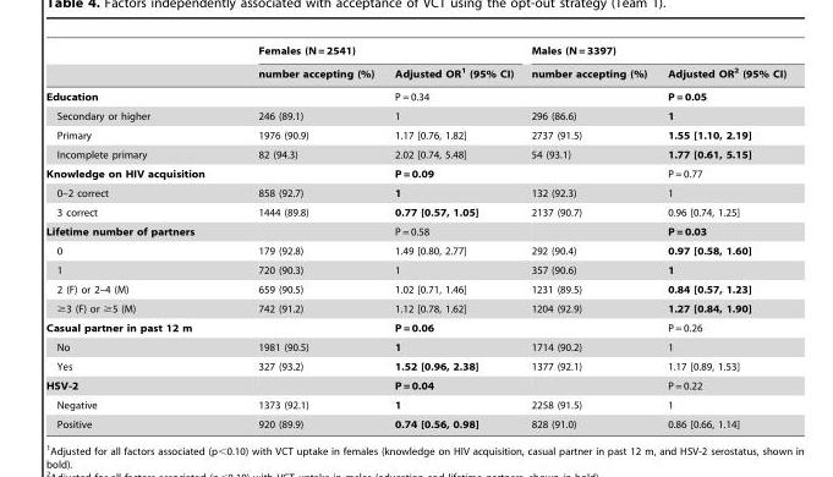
<table><thead><tr><td rowspan="2"></td><td colspan="2">Females (N = 2541)</td><td colspan="2">Males (N = 3397)</td></tr><tr><td>number accepting (%)</td><td>Adjusted OR<sup>1</sup> (95% CI)</td><td>number accepting (%)</td><td>Adjusted OR<sup>2</sup> (95% CI)</td></tr></thead><tbody><tr><td>Education</td><td></td><td>P = 0.34</td><td></td><td>P = 0.05</td></tr><tr><td>Secondary or higher</td><td>246 (89.1)</td><td>1</td><td>296 (86.6)</td><td>1</td></tr><tr><td>Primary</td><td>1976 (90.9)</td><td>1.17 [0.76, 1.82]</td><td>2737 (91.5)</td><td>1.55 [1.10, 2.19]</td></tr><tr><td>Incomplete primary</td><td>82 (94.3)</td><td>2.02 [0.74, 5.48]</td><td>54 (93.1)</td><td>1.77 [0.61, 5.15]</td></tr><tr><td>Knowledge on HIV acquisition</td><td></td><td>P = 0.09</td><td></td><td>P = 0.77</td></tr><tr><td>0–2 correct</td><td>858 (92.7)</td><td>1</td><td>132 (92.3)</td><td>1</td></tr><tr><td>3 correct</td><td>1444 (89.8)</td><td>0.77 [0.57, 1.05]</td><td>2137 (90.7)</td><td>0.96 [0.74, 1.25]</td></tr><tr><td>Lifetime number of partners</td><td></td><td>P = 0.58</td><td></td><td>P = 0.03</td></tr><tr><td>0</td><td>179 (92.8)</td><td>1.49 [0.80, 2.77]</td><td>292 (90.4)</td><td>0.97 [0.58, 1.60]</td></tr><tr><td>1</td><td>720 (90.3)</td><td>1</td><td>357 (90.6)</td><td>1</td></tr><tr><td>2 (F) or 2–4 (M)</td><td>659 (90.5)</td><td>1.02 [0.71, 1.46]</td><td>1231 (89.5)</td><td>0.84 [0.57, 1.23]</td></tr><tr><td>≥3 (F) or ≥5 (M)</td><td>742 (91.2)</td><td>1.12 [0.78, 1.62]</td><td>1204 (92.9)</td><td>1.27 [0.84, 1.90]</td></tr><tr><td>Casual partner in past 12 m</td><td></td><td>P = 0.06</td><td></td><td>P = 0.26</td></tr><tr><td>No</td><td>1981 (90.5)</td><td>1</td><td>1714 (90.2)</td><td>1</td></tr><tr><td>Yes</td><td>327 (93.2)</td><td>1.52 [0.96, 2.38]</td><td>1377 (92.1)</td><td>1.17 [0.89, 1.53]</td></tr><tr><td>HSV-2</td><td></td><td>P = 0.04</td><td></td><td>P = 0.22</td></tr><tr><td>Negative</td><td>1373 (92.1)</td><td>1</td><td>2258 (91.5)</td><td>1</td></tr><tr><td>Positive</td><td>920 (89.9)</td><td>0.74 [0.56, 0.98]</td><td>828 (91.0)</td><td>0.86 [0.66, 1.14]</td></tr></tbody></table>